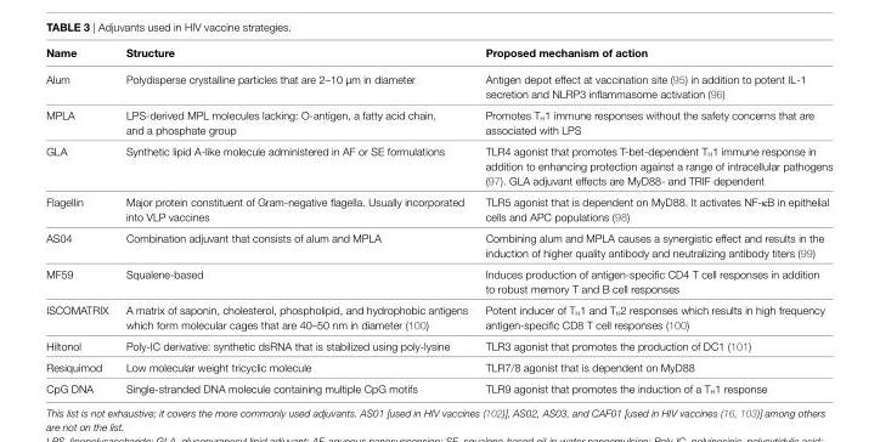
<table><thead><tr><td>Name</td><td>Structure</td><td>Proposed mechanism of action</td></tr></thead><tbody><tr><td>Alum</td><td>Polydisperse crystalline particles that are 2–10 µm in diameter</td><td>Antigen depot effect at vaccination site (95) in addition to potent IL-1 secretion and NLRP3 inflammasome activation (96)</td></tr><tr><td>MPLA</td><td>LPS-derived MPL molecules lacking: O-antigen, a fatty acid chain, and a phosphate group</td><td>Promotes T<sub>H</sub>1 immune responses without the safety concerns that are associated with LPS</td></tr><tr><td>GLA</td><td>Synthetic lipid A-like molecule administered in AF or SE formulations</td><td>TLR4 agonist that promotes T-bet-dependent T<sub>H</sub>1 immune response in addition to enhancing protection against a range of intracellular pathogens (97). GLA adjuvant effects are MyD88- and TRIF dependent</td></tr><tr><td>Flagellin</td><td>Major protein constituent of Gram-negative flagella. Usually incorporated into VLP vaccines</td><td>TLR5 agonist that is dependent on MyD88. It activates NF-κB in epithelial cells and APC populations (98)</td></tr><tr><td>AS04</td><td>Combination adjuvant that consists of alum and MPLA</td><td>Combining alum and MPLA causes a synergistic effect and results in the induction of higher quality antibody and neutralizing antibody titers (99)</td></tr><tr><td>MF59</td><td>Squalene-based</td><td>Induces production of antigen-specific CD4 T cell responses in addition to robust memory T and B cell responses</td></tr><tr><td>ISCOMATRIX</td><td>A matrix of saponin, cholesterol, phospholipid, and hydrophobic antigens which form molecular cages that are 40–50 nm in diameter (100)</td><td>Potent inducer of T<sub>H</sub>1 and T<sub>H</sub>2 responses which results in high frequency antigen-specific CD8 T cell responses (100)</td></tr><tr><td>Hiltonol</td><td>Poly-IC derivative: synthetic dsRNA that is stabilized using poly-lysine</td><td>TLR3 agonist that promotes the production of DC1 (101)</td></tr><tr><td>Resiquimod</td><td>Low molecular weight tricyclic molecule</td><td>TLR7/8 agonist that is dependent on MyD88</td></tr><tr><td>CpG DNA</td><td>Single-stranded DNA molecule containing multiple CpG motifs</td><td>TLR9 agonist that promotes the induction of a T<sub>H</sub>1 response</td></tr></tbody></table>